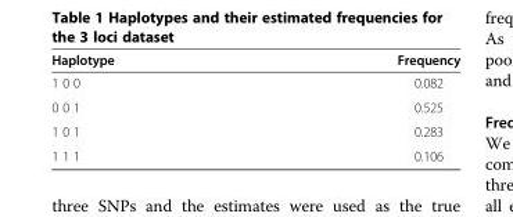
<table><thead><tr><td>Haplotype</td><td>Frequency</td></tr></thead><tbody><tr><td>1 0 0</td><td>0.082</td></tr><tr><td>0 0 1</td><td>0.525</td></tr><tr><td>1 0 1</td><td>0.283</td></tr><tr><td>1 1 1</td><td>0.106</td></tr></tbody></table>